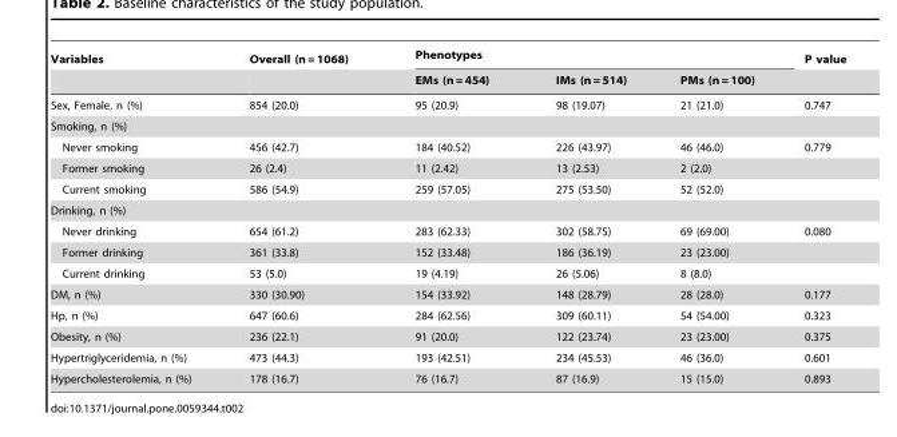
<table><thead><tr><td rowspan="2">Variables</td><td rowspan="2">Overall (n = 1068)</td><td colspan="3">Phenotypes</td><td rowspan="2">P value</td></tr><tr><td>EMs (n = 454)</td><td>IMs (n = 514)</td><td>PMs (n = 100)</td></tr></thead><tbody><tr><td>Sex, Female, n (%)</td><td>854 (20.0)</td><td>95 (20.9)</td><td>98 (19.07)</td><td>21 (21.0)</td><td>0.747</td></tr><tr><td colspan="6">Smoking, n (%)</td></tr><tr><td>Never smoking</td><td>456 (42.7)</td><td>184 (40.52)</td><td>226 (43.97)</td><td>46 (46.0)</td><td>0.779</td></tr><tr><td>Former smoking</td><td>26 (2.4)</td><td>11 (2.42)</td><td>13 (2.53)</td><td>2 (2.0)</td><td></td></tr><tr><td>Current smoking</td><td>586 (54.9)</td><td>259 (57.05)</td><td>275 (53.50)</td><td>52 (52.0)</td><td></td></tr><tr><td colspan="6">Drinking, n (%)</td></tr><tr><td>Never drinking</td><td>654 (61.2)</td><td>283 (62.33)</td><td>302 (58.75)</td><td>69 (69.00)</td><td>0.080</td></tr><tr><td>Former drinking</td><td>361 (33.8)</td><td>152 (33.48)</td><td>186 (36.19)</td><td>23 (23.00)</td><td></td></tr><tr><td>Current drinking</td><td>53 (5.0)</td><td>19 (4.19)</td><td>26 (5.06)</td><td>8 (8.0)</td><td></td></tr><tr><td>DM, n (%)</td><td>330 (30.90)</td><td>154 (33.92)</td><td>148 (28.79)</td><td>28 (28.0)</td><td>0.177</td></tr><tr><td>Hp, n (%)</td><td>647 (60.6)</td><td>284 (62.56)</td><td>309 (60.11)</td><td>54 (54.00)</td><td>0.323</td></tr><tr><td>Obesity, n (%)</td><td>236 (22.1)</td><td>91 (20.0)</td><td>122 (23.74)</td><td>23 (23.00)</td><td>0.375</td></tr><tr><td>Hypertriglyceridemia, n (%)</td><td>473 (44.3)</td><td>193 (42.51)</td><td>234 (45.53)</td><td>46 (36.0)</td><td>0.601</td></tr><tr><td>Hypercholesterolemia, n (%)</td><td>178 (16.7)</td><td>76 (16.7)</td><td>87 (16.9)</td><td>15 (15.0)</td><td>0.893</td></tr></tbody></table>